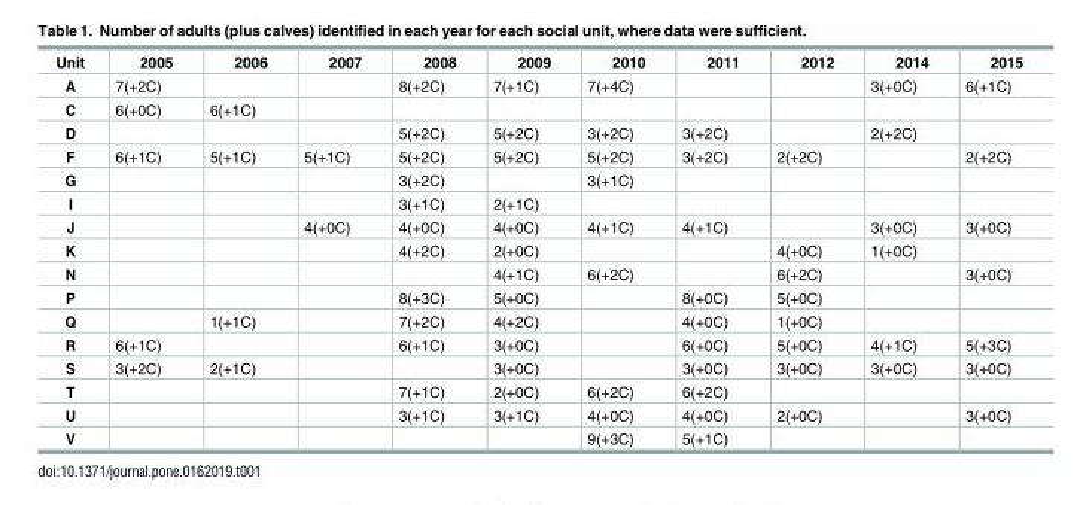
<table><thead><tr><td>Unit</td><td>2005</td><td>2006</td><td>2007</td><td>2008</td><td>2009</td><td>2010</td><td>2011</td><td>2012</td><td>2014</td><td>2015</td></tr></thead><tbody><tr><td>A</td><td>7(+2C)</td><td></td><td></td><td>8(+2C)</td><td>7(+1C)</td><td>7(+4C)</td><td></td><td></td><td>3(+0C)</td><td>6(+1C)</td></tr><tr><td>C</td><td>6(+0C)</td><td>6(+1C)</td><td></td><td></td><td></td><td></td><td></td><td></td><td></td><td></td></tr><tr><td>D</td><td></td><td></td><td></td><td>5(+2C)</td><td>5(+2C)</td><td>3(+2C)</td><td>3(+2C)</td><td></td><td>2(+2C)</td><td></td></tr><tr><td>F</td><td>6(+1C)</td><td>5(+1C)</td><td>5(+1C)</td><td>5(+2C)</td><td>5(+2C)</td><td>5(+2C)</td><td>3(+2C)</td><td>2(+2C)</td><td></td><td>2(+2C)</td></tr><tr><td>G</td><td></td><td></td><td></td><td>3(+2C)</td><td></td><td>3(+1C)</td><td></td><td></td><td></td><td></td></tr><tr><td>I</td><td></td><td></td><td></td><td>3(+1C)</td><td>2(+1C)</td><td></td><td></td><td></td><td></td><td></td></tr><tr><td>J</td><td></td><td></td><td>4(+0C)</td><td>4(+0C)</td><td>4(+0C)</td><td>4(+1C)</td><td>4(+1C)</td><td></td><td>3(+0C)</td><td>3(+0C)</td></tr><tr><td>K</td><td></td><td></td><td></td><td>4(+2C)</td><td>2(+0C)</td><td></td><td></td><td>4(+0C)</td><td>1(+0C)</td><td></td></tr><tr><td>N</td><td></td><td></td><td></td><td></td><td>4(+1C)</td><td>6(+2C)</td><td></td><td>6(+2C)</td><td></td><td>3(+0C)</td></tr><tr><td>P</td><td></td><td></td><td></td><td>8(+3C)</td><td>5(+0C)</td><td></td><td>8(+0C)</td><td>5(+0C)</td><td></td><td></td></tr><tr><td>Q</td><td></td><td>1(+1C)</td><td></td><td>7(+2C)</td><td>4(+2C)</td><td></td><td>4(+0C)</td><td>1(+0C)</td><td></td><td></td></tr><tr><td>R</td><td>6(+1C)</td><td></td><td></td><td>6(+1C)</td><td>3(+0C)</td><td></td><td>6(+0C)</td><td>5(+0C)</td><td>4(+1C)</td><td>5(+3C)</td></tr><tr><td>S</td><td>3(+2C)</td><td>2(+1C)</td><td></td><td></td><td>3(+0C)</td><td></td><td>3(+0C)</td><td>3(+0C)</td><td>3(+0C)</td><td>3(+0C)</td></tr><tr><td>T</td><td></td><td></td><td></td><td>7(+1C)</td><td>2(+0C)</td><td>6(+2C)</td><td>6(+2C)</td><td></td><td></td><td></td></tr><tr><td>U</td><td></td><td></td><td></td><td>3(+1C)</td><td>3(+1C)</td><td>4(+0C)</td><td>4(+0C)</td><td>2(+0C)</td><td></td><td>3(+0C)</td></tr><tr><td>V</td><td></td><td></td><td></td><td></td><td></td><td>9(+3C)</td><td>5(+1C)</td><td></td><td></td><td></td></tr></tbody></table>